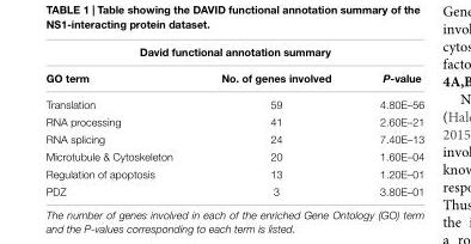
<table><thead><tr><td colspan="3">David functional annotation summary</td></tr><tr><td>GO term</td><td>No. of genes involved</td><td>P-value</td></tr></thead><tbody><tr><td>Translation</td><td>59</td><td>4.80E–56</td></tr><tr><td>RNA processing</td><td>41</td><td>2.60E–21</td></tr><tr><td>RNA splicing</td><td>24</td><td>7.40E–13</td></tr><tr><td>Microtubule &amp; Cytoskeleton</td><td>20</td><td>1.60E–04</td></tr><tr><td>Regulation of apoptosis</td><td>13</td><td>1.20E–01</td></tr><tr><td>PDZ</td><td>3</td><td>3.80E–01</td></tr></tbody></table>